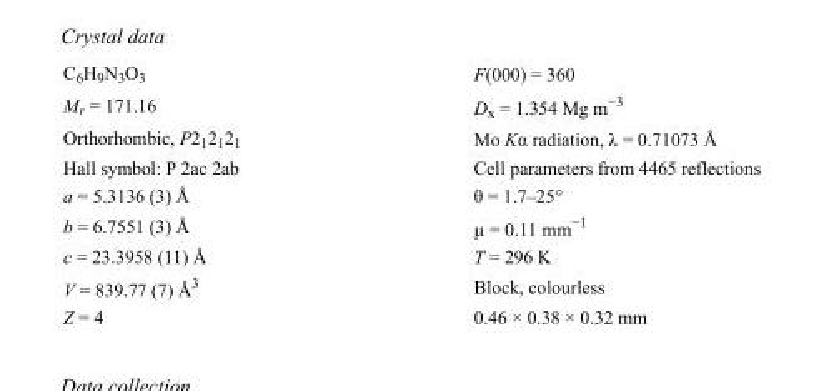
<table><tbody><tr><td>C<sub>6</sub>H<sub>9</sub>N<sub>3</sub>O<sub>3</sub></td><td>F(000) = 360</td></tr><tr><td>M<sub>r</sub> = 171.16</td><td>D<sub>x</sub> = 1.354 Mg m<sup>−3</sup></td></tr><tr><td>Orthorhombic, P2<sub>1</sub>2<sub>1</sub>2<sub>1</sub></td><td>Mo Kα radiation, λ = 0.71073 Å</td></tr><tr><td>Hall symbol: P 2ac 2ab</td><td>Cell parameters from 4465 reflections</td></tr><tr><td>a = 5.3136 (3) Å</td><td>θ = 1.7–25°</td></tr><tr><td>b = 6.7551 (3) Å</td><td>µ = 0.11 mm<sup>−1</sup></td></tr><tr><td>c = 23.3958 (11) Å</td><td>T = 296 K</td></tr><tr><td>V = 839.77 (7) Å<sup>3</sup></td><td>Block, colourless</td></tr><tr><td>Z = 4</td><td>0.46 × 0.38 × 0.32 mm</td></tr></tbody></table>